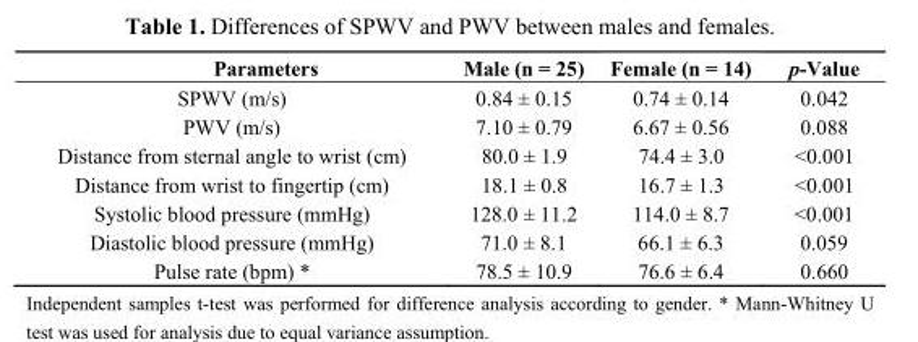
<table><thead><tr><td>Parameters</td><td>Male (n = 25)</td><td>Female (n = 14)</td><td>p-Value</td></tr></thead><tbody><tr><td>SPWV (m/s)</td><td>0.84 ± 0.15</td><td>0.74 ± 0.14</td><td>0.042</td></tr><tr><td>PWV (m/s)</td><td>7.10 ± 0.79</td><td>6.67 ± 0.56</td><td>0.088</td></tr><tr><td>Distance from sternal angle to wrist (cm)</td><td>80.0 ± 1.9</td><td>74.4 ± 3.0</td><td>&lt;0.001</td></tr><tr><td>Distance from wrist to fingertip (cm)</td><td>18.1 ± 0.8</td><td>16.7 ± 1.3</td><td>&lt;0.001</td></tr><tr><td>Systolic blood pressure (mmHg)</td><td>128.0 ± 11.2</td><td>114.0 ± 8.7</td><td>&lt;0.001</td></tr><tr><td>Diastolic blood pressure (mmHg)</td><td>71.0 ± 8.1</td><td>66.1 ± 6.3</td><td>0.059</td></tr><tr><td>Pulse rate (bpm) *</td><td>78.5 ± 10.9</td><td>76.6 ± 6.4</td><td>0.660</td></tr></tbody></table>